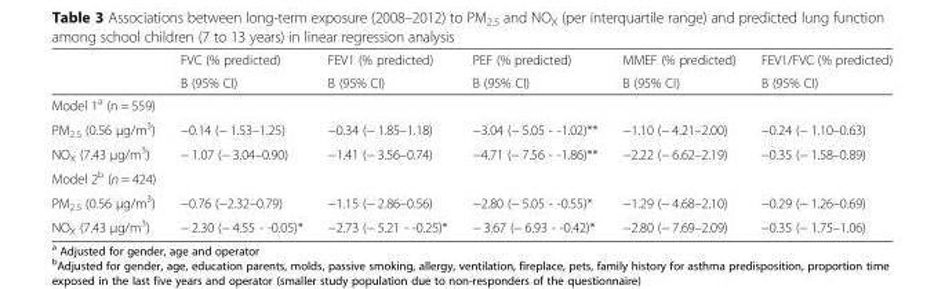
<table><thead><tr><td rowspan="2"></td><td rowspan="2">FVC (% predicted) B (95% CI)</td><td rowspan="2">FEV1 (% predicted) B (95% CI)</td><td rowspan="2">PEF (% predicted) B (95% CI)</td><td rowspan="2">MMEF (% predicted) B (95% CI)</td><td rowspan="2">FEV1/FVC (% predicted) B (95% CI)</td></tr><tr></tr></thead><tbody><tr><td colspan="6">Model 1<sup>a</sup> (n = 559)</td></tr><tr><td>PM<sub>2.5</sub> (0.56 μg/m<sup>3</sup>)</td><td>−0.14 (− 1.53–1.25)</td><td>−0.34 (− 1.85–1.18)</td><td>−3.04 (− 5.05 - -1.02)**</td><td>−1.10 (− 4.21–2.00)</td><td>−0.24 (− 1.10–0.63)</td></tr><tr><td>NO<sub>X</sub> (7.43 μg/m<sup>3</sup>)</td><td>− 1.07 (− 3.04–0.90)</td><td>−1.41 (− 3.56–0.74)</td><td>−4.71 (− 7.56 - -1.86)**</td><td>−2.22 (− 6.62–2.19)</td><td>−0.35 (− 1.58–0.89)</td></tr><tr><td colspan="6">Model 2<sup>b</sup> (n = 424)</td></tr><tr><td>PM<sub>2.5</sub> (0.56 μg/m<sup>3</sup>)</td><td>−0.76 (−2.32–0.79)</td><td>−1.15 (− 2.86–0.56)</td><td>−2.80 (− 5.05 - -0.55)*</td><td>−1.29 (− 4.68–2.10)</td><td>−0.29 (− 1.26–0.69)</td></tr><tr><td>NO<sub>X</sub> (7.43 μg/m<sup>3</sup>)</td><td>− 2.30 (− 4.55 - -0.05)*</td><td>−2.73 (− 5.21 - -0.25)*</td><td>− 3.67 (− 6.93 - -0.42)*</td><td>−2.80 (− 7.69–2.09)</td><td>−0.35 (− 1.75–1.06)</td></tr></tbody></table>